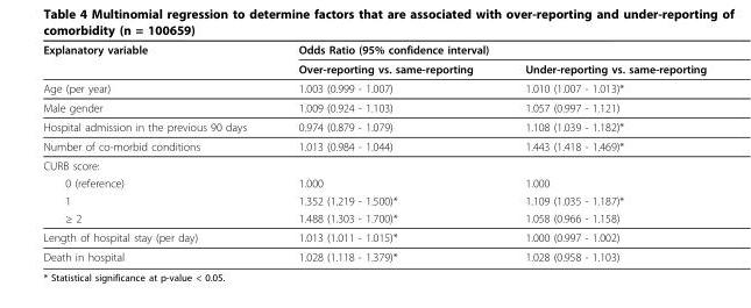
<table><thead><tr><td rowspan="2">Explanatory variable</td><td colspan="2">Odds Ratio (95% confidence interval)</td></tr><tr><td>Over-reporting vs. same-reporting</td><td>Under-reporting vs. same-reporting</td></tr></thead><tbody><tr><td>Age (per year)</td><td>1.003 (0.999 - 1.007)</td><td>1.010 (1.007 - 1.013)*</td></tr><tr><td>Male gender</td><td>1.009 (0.924 - 1.103)</td><td>1.057 (0.997 - 1.121)</td></tr><tr><td>Hospital admission in the previous 90 days</td><td>0.974 (0.879 - 1.079)</td><td>1.108 (1.039 - 1.182)*</td></tr><tr><td>Number of co-morbid conditions</td><td>1.013 (0.984 - 1.044)</td><td>1.443 (1.418 - 1.469)*</td></tr><tr><td colspan="3">CURB score:</td></tr><tr><td>0 (reference)</td><td>1.000</td><td>1.000</td></tr><tr><td>1</td><td>1.352 (1.219 - 1.500)*</td><td>1.109 (1.035 - 1.187)*</td></tr><tr><td>≥ 2</td><td>1.488 (1.303 - 1.700)*</td><td>1.058 (0.966 - 1.158)</td></tr><tr><td>Length of hospital stay (per day)</td><td>1.013 (1.011 - 1.015)*</td><td>1.000 (0.997 - 1.002)</td></tr><tr><td>Death in hospital</td><td>1.028 (1.118 - 1.379)*</td><td>1.028 (0.958 - 1.103)</td></tr></tbody></table>